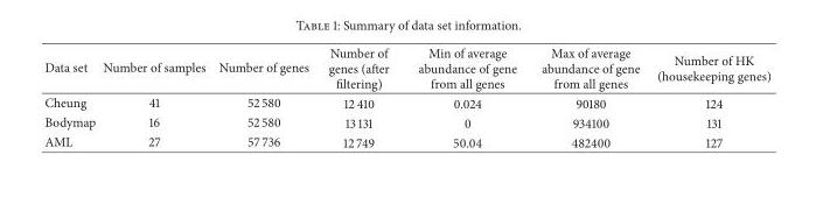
<table><thead><tr><td>Data set</td><td>Number of samples</td><td>Number of genes</td><td>Number of genes (after filtering)</td><td>Min of average abundance of gene from all genes</td><td>Max of average abundance of gene from all genes</td><td>Number of HK (housekeeping genes)</td></tr></thead><tbody><tr><td>Cheung</td><td>41</td><td>52 580</td><td>12 410</td><td>0.024</td><td>90180</td><td>124</td></tr><tr><td>Bodymap</td><td>16</td><td>52 580</td><td>13 131</td><td>0</td><td>934100</td><td>131</td></tr><tr><td>AML</td><td>27</td><td>57 736</td><td>12 749</td><td>50.04</td><td>482400</td><td>127</td></tr></tbody></table>